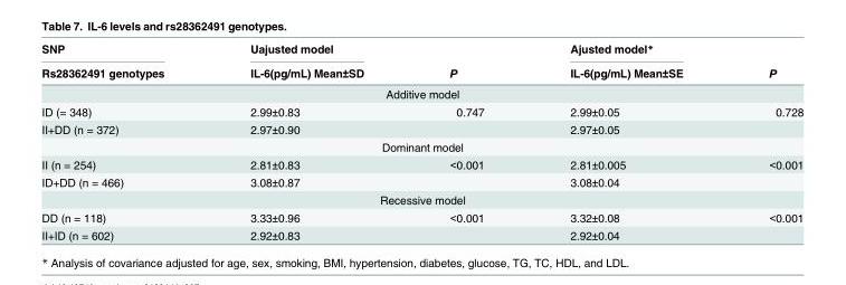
<table><thead><tr><td rowspan="2">SNP Rs28362491 genotypes</td><td rowspan="2">Uajusted model IL-6(pg/mL) Mean±SD</td><td rowspan="2">P</td><td rowspan="2">Ajusted model* IL-6(pg/mL) Mean±SE</td><td rowspan="2">P</td></tr><tr></tr></thead><tbody><tr><td colspan="5">Additive model</td></tr><tr><td>ID (= 348)</td><td>2.99±0.83</td><td>0.747</td><td>2.99±0.05</td><td>0.728</td></tr><tr><td>II+DD (n = 372)</td><td>2.97±0.90</td><td></td><td>2.97±0.05</td><td></td></tr><tr><td colspan="5">Dominant model</td></tr><tr><td>II (n = 254)</td><td>2.81±0.83</td><td>&lt;0.001</td><td>2.81±0.005</td><td>&lt;0.001</td></tr><tr><td>ID+DD (n = 466)</td><td>3.08±0.87</td><td></td><td>3.08±0.04</td><td></td></tr><tr><td colspan="5">Recessive model</td></tr><tr><td>DD (n = 118)</td><td>3.33±0.96</td><td>&lt;0.001</td><td>3.32±0.08</td><td>&lt;0.001</td></tr><tr><td>II+ID (n = 602)</td><td>2.92±0.83</td><td></td><td>2.92±0.04</td><td></td></tr></tbody></table>